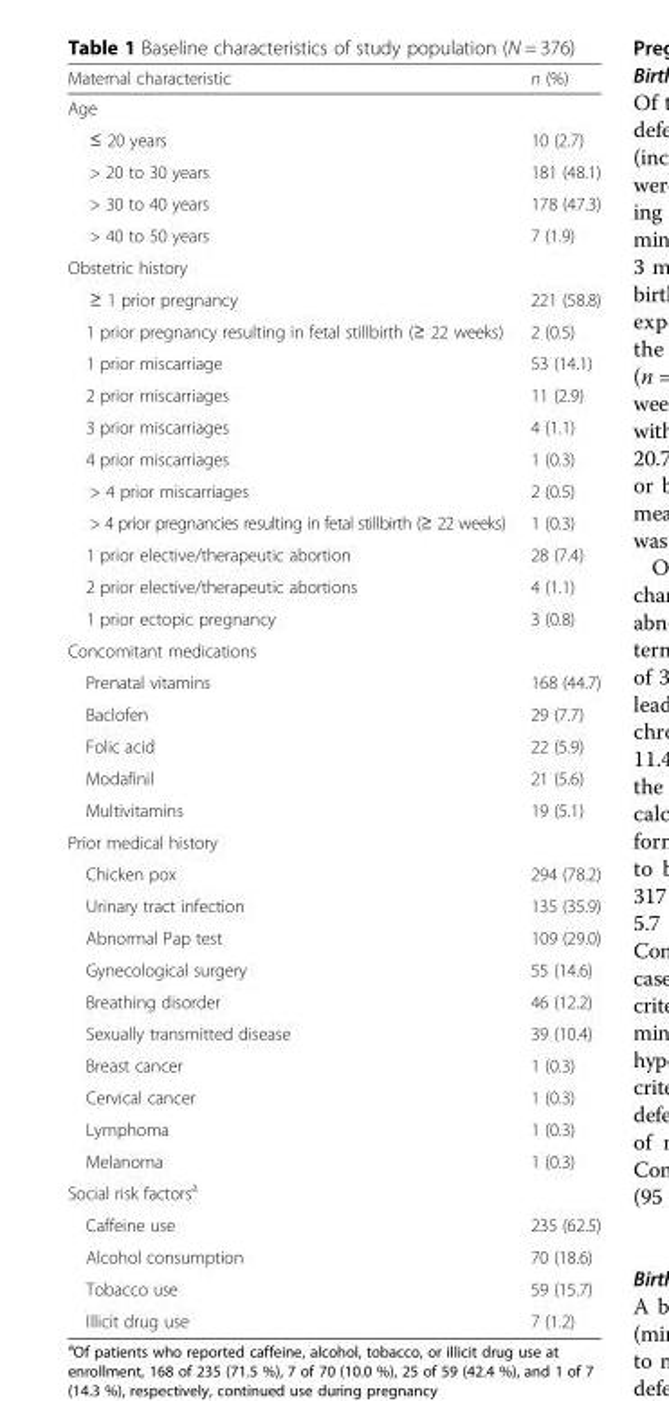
<table><thead><tr><td>Maternal characteristic</td><td>n (%)</td></tr></thead><tbody><tr><td colspan="2">Age</td></tr><tr><td>≤ 20 years</td><td>10 (2.7)</td></tr><tr><td>&gt; 20 to 30 years</td><td>181 (48.1)</td></tr><tr><td>&gt; 30 to 40 years</td><td>178 (47.3)</td></tr><tr><td>&gt; 40 to 50 years</td><td>7 (1.9)</td></tr><tr><td colspan="2">Obstetric history</td></tr><tr><td>≥ 1 prior pregnancy</td><td>221 (58.8)</td></tr><tr><td>1 prior pregnancy resulting in fetal stillbirth (≥ 22 weeks)</td><td>2 (0.5)</td></tr><tr><td>1 prior miscarriage</td><td>53 (14.1)</td></tr><tr><td>2 prior miscarriages</td><td>11 (2.9)</td></tr><tr><td>3 prior miscarriages</td><td>4 (1.1)</td></tr><tr><td>4 prior miscarriages</td><td>1 (0.3)</td></tr><tr><td>&gt; 4 prior miscarriages</td><td>2 (0.5)</td></tr><tr><td>&gt; 4 prior pregnancies resulting in fetal stillbirth (≥ 22 weeks)</td><td>1 (0.3)</td></tr><tr><td>1 prior elective/therapeutic abortion</td><td>28 (7.4)</td></tr><tr><td>2 prior elective/therapeutic abortions</td><td>4 (1.1)</td></tr><tr><td>1 prior ectopic pregnancy</td><td>3 (0.8)</td></tr><tr><td colspan="2">Concomitant medications</td></tr><tr><td>Prenatal vitamins</td><td>168 (44.7)</td></tr><tr><td>Baclofen</td><td>29 (7.7)</td></tr><tr><td>Folic acid</td><td>22 (5.9)</td></tr><tr><td>Modafinil</td><td>21 (5.6)</td></tr><tr><td>Multivitamins</td><td>19 (5.1)</td></tr><tr><td colspan="2">Prior medical history</td></tr><tr><td>Chicken pox</td><td>294 (78.2)</td></tr><tr><td>Urinary tract infection</td><td>135 (35.9)</td></tr><tr><td>Abnormal Pap test</td><td>109 (29.0)</td></tr><tr><td>Gynecological surgery</td><td>55 (14.6)</td></tr><tr><td>Breathing disorder</td><td>46 (12.2)</td></tr><tr><td>Sexually transmitted disease</td><td>39 (10.4)</td></tr><tr><td>Breast cancer</td><td>1 (0.3)</td></tr><tr><td>Cervical cancer</td><td>1 (0.3)</td></tr><tr><td>Lymphoma</td><td>1 (0.3)</td></tr><tr><td>Melanoma</td><td>1 (0.3)</td></tr><tr><td colspan="2">Social risk factors<sup>a</sup></td></tr><tr><td>Caffeine use</td><td>235 (62.5)</td></tr><tr><td>Alcohol consumption</td><td>70 (18.6)</td></tr><tr><td>Tobacco use</td><td>59 (15.7)</td></tr><tr><td>Illicit drug use</td><td>7 (1.2)</td></tr></tbody></table>